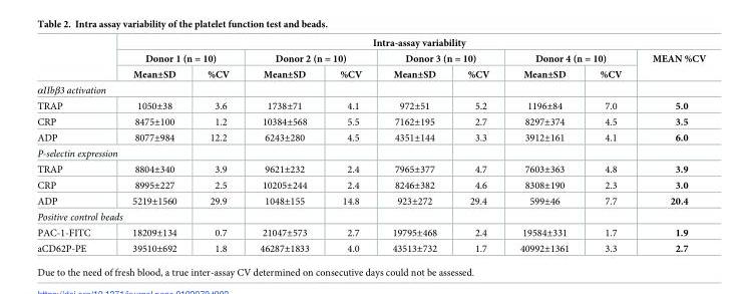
<table><thead><tr><td rowspan="3"></td><td colspan="9">Intra-assay variability</td></tr><tr><td colspan="2">Donor 1 (n = 10)</td><td colspan="2">Donor 2 (n = 10)</td><td colspan="2">Donor 3 (n = 10)</td><td colspan="2">Donor 4 (n = 10)</td><td rowspan="2">MEAN %CV</td></tr><tr><td>Mean±SD</td><td>%CV</td><td>Mean±SD</td><td>%CV</td><td>Mean±SD</td><td>%CV</td><td>Mean±SD</td><td>%CV</td></tr></thead><tbody><tr><td colspan="10">αIIbβ3 activation</td></tr><tr><td>TRAP</td><td>1050±38</td><td>3.6</td><td>1738±71</td><td>4.1</td><td>972±51</td><td>5.2</td><td>1196±84</td><td>7.0</td><td>5.0</td></tr><tr><td>CRP</td><td>8475±100</td><td>1.2</td><td>10384±568</td><td>5.5</td><td>7162±195</td><td>2.7</td><td>8297±374</td><td>4.5</td><td>3.5</td></tr><tr><td>ADP</td><td>8077±984</td><td>12.2</td><td>6243±280</td><td>4.5</td><td>4351±144</td><td>3.3</td><td>3912±161</td><td>4.1</td><td>6.0</td></tr><tr><td colspan="10">P-selectin expression</td></tr><tr><td>TRAP</td><td>8804±340</td><td>3.9</td><td>9621±232</td><td>2.4</td><td>7965±377</td><td>4.7</td><td>7603±363</td><td>4.8</td><td>3.9</td></tr><tr><td>CRP</td><td>8995±227</td><td>2.5</td><td>10205±244</td><td>2.4</td><td>8246±382</td><td>4.6</td><td>8308±190</td><td>2.3</td><td>3.0</td></tr><tr><td>ADP</td><td>5219±1560</td><td>29.9</td><td>1048±155</td><td>14.8</td><td>923±272</td><td>29.4</td><td>599±46</td><td>7.7</td><td>20.4</td></tr><tr><td colspan="10">Positive control beads</td></tr><tr><td>PAC-1-FITC</td><td>18209±134</td><td>0.7</td><td>21047±573</td><td>2.7</td><td>19795±468</td><td>2.4</td><td>19584±331</td><td>1.7</td><td>1.9</td></tr><tr><td>aCD62P-PE</td><td>39510±692</td><td>1.8</td><td>46287±1833</td><td>4.0</td><td>43513±732</td><td>1.7</td><td>40992±1361</td><td>3.3</td><td>2.7</td></tr></tbody></table>